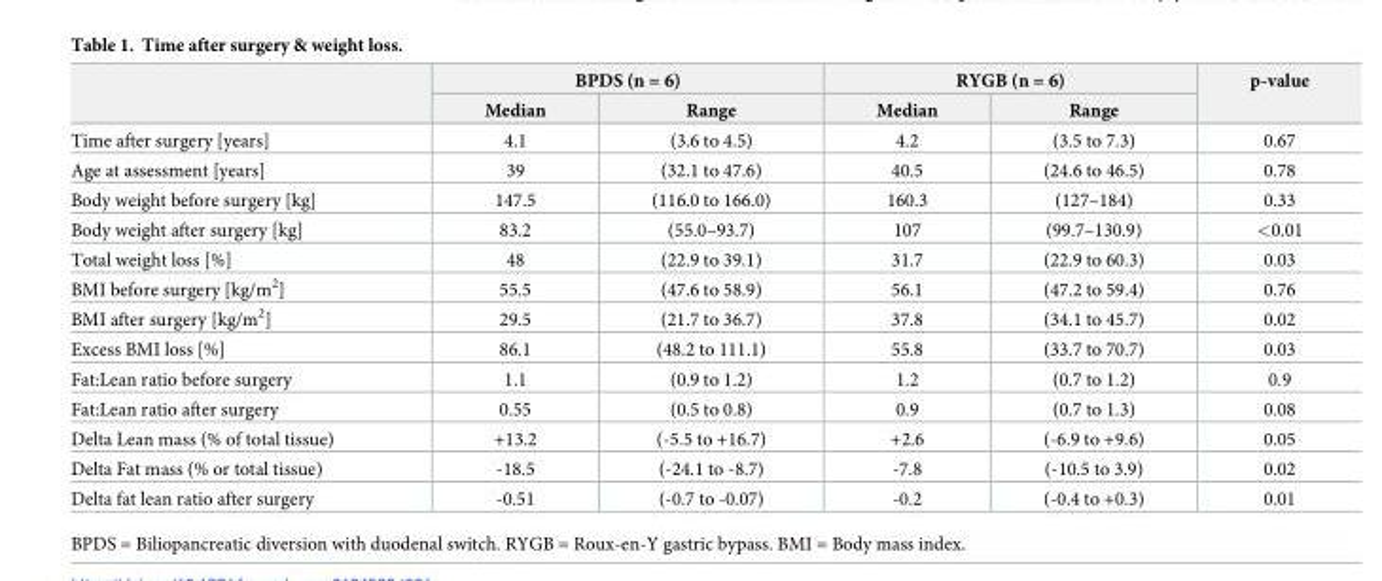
<table><thead><tr><td rowspan="2"></td><td colspan="2">BPDS (n = 6)</td><td colspan="2">RYGB (n = 6)</td><td rowspan="2">p-value</td></tr><tr><td>Median</td><td>Range</td><td>Median</td><td>Range</td></tr></thead><tbody><tr><td>Time after surgery [years]</td><td>4.1</td><td>(3.6 to 4.5)</td><td>4.2</td><td>(3.5 to 7.3)</td><td>0.67</td></tr><tr><td>Age at assessment [years]</td><td>39</td><td>(32.1 to 47.6)</td><td>40.5</td><td>(24.6 to 46.5)</td><td>0.78</td></tr><tr><td>Body weight before surgery [kg]</td><td>147.5</td><td>(116.0 to 166.0)</td><td>160.3</td><td>(127–184)</td><td>0.33</td></tr><tr><td>Body weight after surgery [kg]</td><td>83.2</td><td>(55.0–93.7)</td><td>107</td><td>(99.7–130.9)</td><td>&lt;0.01</td></tr><tr><td>Total weight loss [%]</td><td>48</td><td>(22.9 to 39.1)</td><td>31.7</td><td>(22.9 to 60.3)</td><td>0.03</td></tr><tr><td>BMI before surgery [kg/m<sup>2</sup>]</td><td>55.5</td><td>(47.6 to 58.9)</td><td>56.1</td><td>(47.2 to 59.4)</td><td>0.76</td></tr><tr><td>BMI after surgery [kg/m<sup>2</sup>]</td><td>29.5</td><td>(21.7 to 36.7)</td><td>37.8</td><td>(34.1 to 45.7)</td><td>0.02</td></tr><tr><td>Excess BMI loss [%]</td><td>86.1</td><td>(48.2 to 111.1)</td><td>55.8</td><td>(33.7 to 70.7)</td><td>0.03</td></tr><tr><td>Fat:Lean ratio before surgery</td><td>1.1</td><td>(0.9 to 1.2)</td><td>1.2</td><td>(0.7 to 1.2)</td><td>0.9</td></tr><tr><td>Fat:Lean ratio after surgery</td><td>0.55</td><td>(0.5 to 0.8)</td><td>0.9</td><td>(0.7 to 1.3)</td><td>0.08</td></tr><tr><td>Delta Lean mass (% of total tissue)</td><td>+13.2</td><td>(-5.5 to +16.7)</td><td>+2.6</td><td>(-6.9 to +9.6)</td><td>0.05</td></tr><tr><td>Delta Fat mass (% or total tissue)</td><td>-18.5</td><td>(-24.1 to -8.7)</td><td>-7.8</td><td>(-10.5 to 3.9)</td><td>0.02</td></tr><tr><td>Delta fat lean ratio after surgery</td><td>-0.51</td><td>(-0.7 to -0.07)</td><td>-0.2</td><td>(-0.4 to +0.3)</td><td>0.01</td></tr></tbody></table>